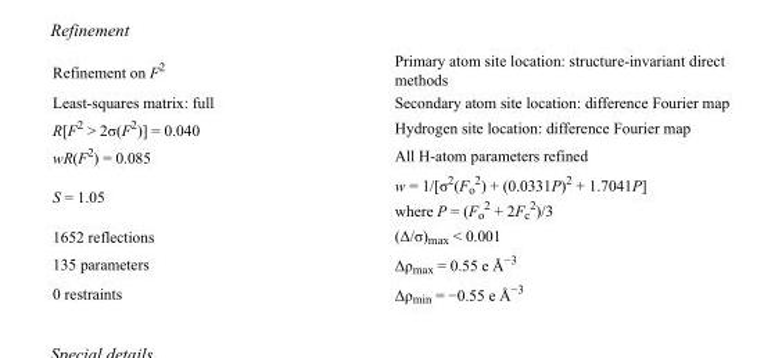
<table><tbody><tr><td>Refinement on F<sup>2</sup></td><td>Primary atom site location: structure-invariant direct methods</td></tr><tr><td>Least-squares matrix: full</td><td>Secondary atom site location: difference Fourier map</td></tr><tr><td>R[F<sup>2</sup> &gt; 2σ(F<sup>2</sup>)] = 0.040</td><td>Hydrogen site location: difference Fourier map</td></tr><tr><td>wR(F<sup>2</sup>) = 0.085</td><td>All H-atom parameters refined</td></tr><tr><td>S = 1.05</td><td>w = 1/[σ<sup>2</sup>(F<sub>o</sub> <sup>2</sup>) + (0.0331P)<sup>2</sup> + 1.7041P] where P = (F<sub>o</sub> <sup>2</sup> + 2F<sub>c</sub> <sup>2</sup>)/3</td></tr><tr><td>1652 reflections</td><td>(Δ/σ)<sub>max</sub> &lt; 0.001</td></tr><tr><td>135 parameters</td><td>Δρ<sub>max</sub> = 0.55 e Å<sup>−3</sup></td></tr><tr><td>0 restraints</td><td>Δρ<sub>min</sub> = −0.55 e Å<sup>−3</sup></td></tr></tbody></table>